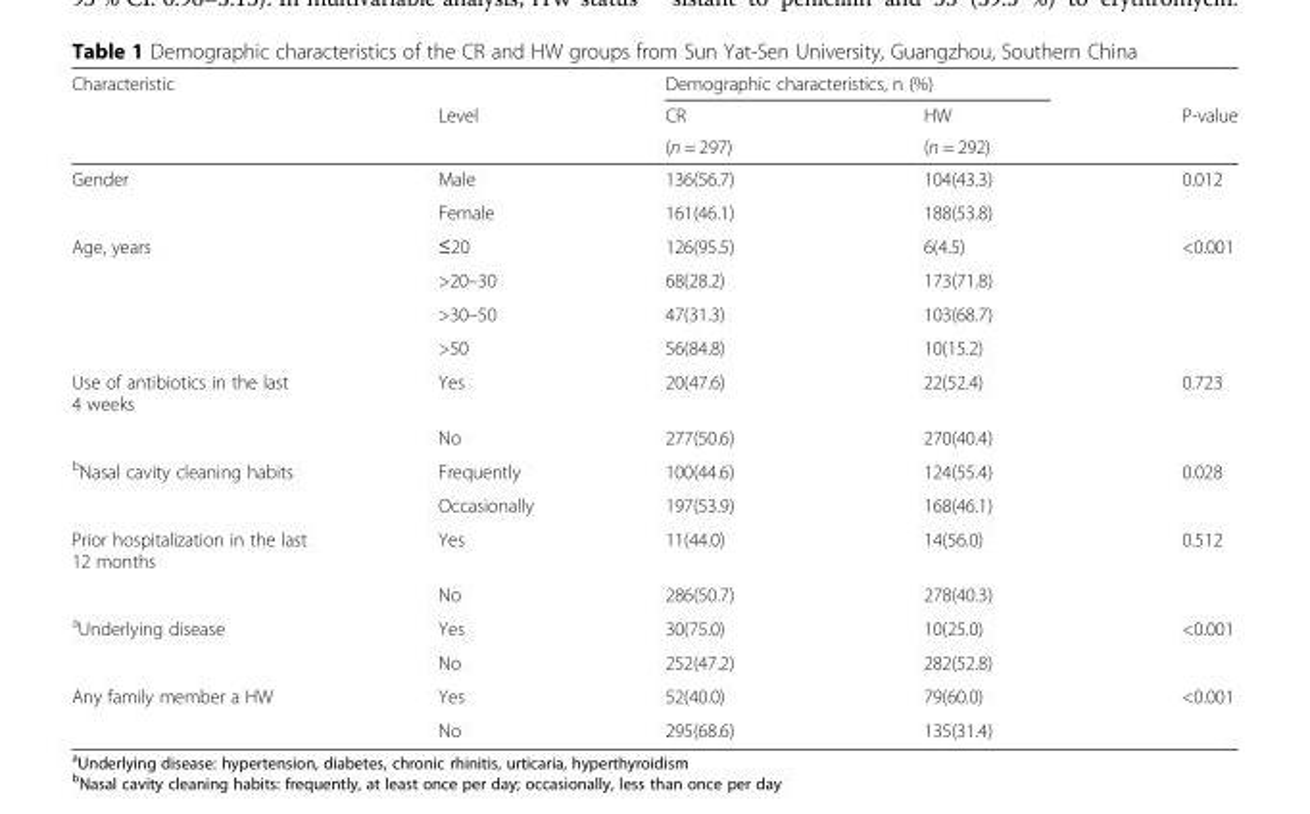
<table><thead><tr><td rowspan="3">Characteristic</td><td rowspan="3">Level</td><td colspan="2">Demographic characteristics, n (%)</td><td rowspan="3">P-value</td></tr><tr><td rowspan="2">CR (n = 297)</td><td rowspan="2">HW (n = 292)</td></tr><tr></tr></thead><tbody><tr><td rowspan="2">Gender</td><td>Male</td><td>136(56.7)</td><td>104(43.3)</td><td>0.012</td></tr><tr><td>Female</td><td>161(46.1)</td><td>188(53.8)</td><td></td></tr><tr><td rowspan="4">Age, years</td><td>≤20</td><td>126(95.5)</td><td>6(4.5)</td><td>&lt;0.001</td></tr><tr><td>&gt;20–30</td><td>68(28.2)</td><td>173(71.8)</td><td></td></tr><tr><td>&gt;30–50</td><td>47(31.3)</td><td>103(68.7)</td><td></td></tr><tr><td>&gt;50</td><td>56(84.8)</td><td>10(15.2)</td><td></td></tr><tr><td rowspan="2">Use of antibiotics in the last 4 weeks</td><td>Yes</td><td>20(47.6)</td><td>22(52.4)</td><td>0.723</td></tr><tr><td>No</td><td>277(50.6)</td><td>270(40.4)</td><td></td></tr><tr><td rowspan="2"><sup>b</sup>Nasal cavity cleaning habits</td><td>Frequently</td><td>100(44.6)</td><td>124(55.4)</td><td>0.028</td></tr><tr><td>Occasionally</td><td>197(53.9)</td><td>168(46.1)</td><td></td></tr><tr><td rowspan="2">Prior hospitalization in the last 12 months</td><td>Yes</td><td>11(44.0)</td><td>14(56.0)</td><td>0.512</td></tr><tr><td>No</td><td>286(50.7)</td><td>278(40.3)</td><td></td></tr><tr><td rowspan="2"><sup>a</sup>Underlying disease</td><td>Yes</td><td>30(75.0)</td><td>10(25.0)</td><td>&lt;0.001</td></tr><tr><td>No</td><td>252(47.2)</td><td>282(52.8)</td><td></td></tr><tr><td rowspan="2">Any family member a HW</td><td>Yes</td><td>52(40.0)</td><td>79(60.0)</td><td>&lt;0.001</td></tr><tr><td>No</td><td>295(68.6)</td><td>135(31.4)</td><td></td></tr></tbody></table>